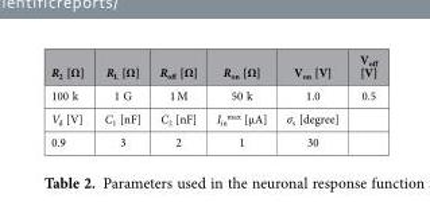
<table><thead><tr><td>R<sub>2</sub> [Ω]</td><td>R<sub>L</sub> [Ω]</td><td>R<sub>off</sub> [Ω]</td><td>R<sub>on</sub> [Ω]</td><td>V<sub>on</sub> [V]</td><td>V<sub>off</sub> [V]</td></tr></thead><tbody><tr><td>100 k</td><td>1 G</td><td>1 M</td><td>50 k</td><td>1.0</td><td>0.5</td></tr><tr><td>V<sub>d</sub> [V]</td><td>C<sub>1</sub> [nF]</td><td>C<sub>2</sub> [nF]</td><td>I<sub>in</sub> <sup>max</sup> [μA]</td><td>σ<sub>s</sub> [degree]</td><td></td></tr><tr><td>0.9</td><td>3</td><td>2</td><td>1</td><td>30</td><td></td></tr></tbody></table>